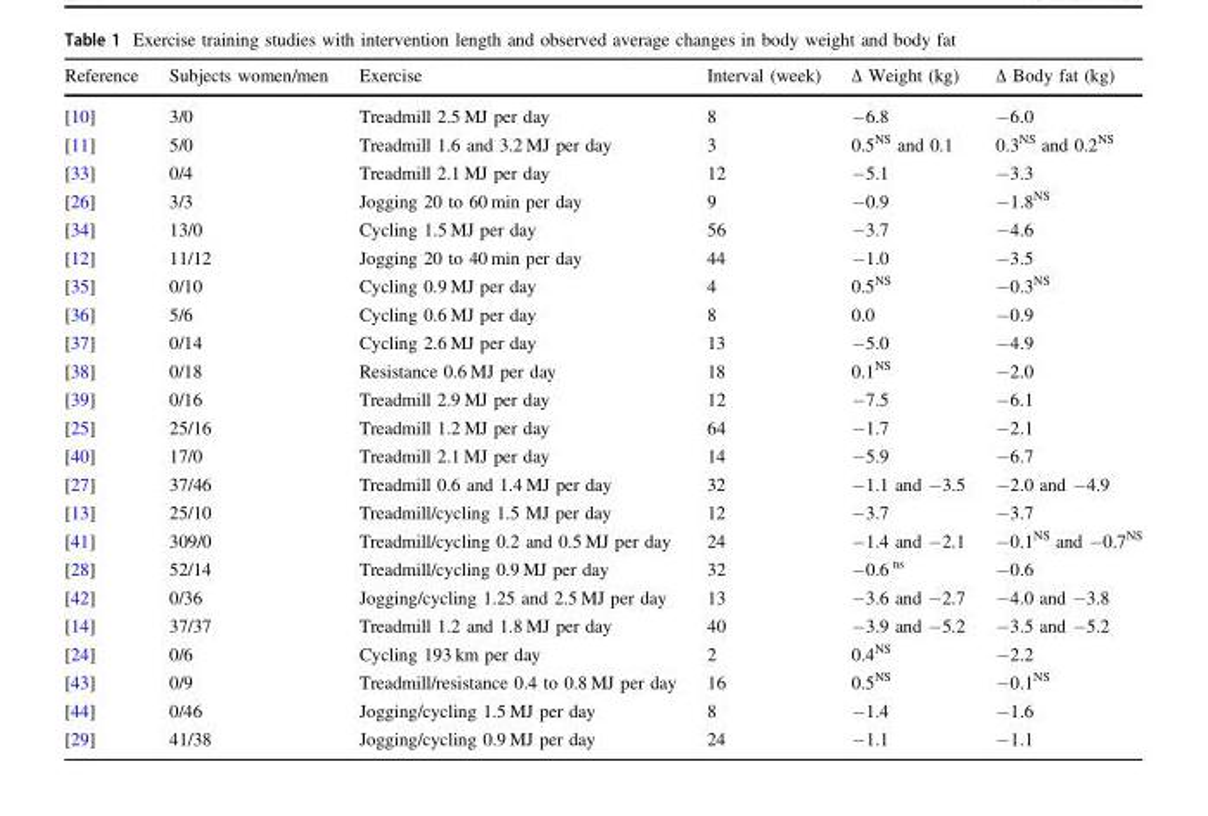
<table><thead><tr><td>Reference</td><td>Subjects women/men</td><td>Exercise</td><td>Interval (week)</td><td>Δ Weight (kg)</td><td>Δ Body fat (kg)</td></tr></thead><tbody><tr><td>[10]</td><td>3/0</td><td>Treadmill 2.5 MJ per day</td><td>8</td><td>−6.8</td><td>−6.0</td></tr><tr><td>[11]</td><td>5/0</td><td>Treadmill 1.6 and 3.2 MJ per day</td><td>3</td><td>0.5<sup>NS</sup> and 0.1</td><td>0.3<sup>NS</sup> and 0.2<sup>NS</sup></td></tr><tr><td>[33]</td><td>0/4</td><td>Treadmill 2.1 MJ per day</td><td>12</td><td>−5.1</td><td>−3.3</td></tr><tr><td>[26]</td><td>3/3</td><td>Jogging 20 to 60 min per day</td><td>9</td><td>−0.9</td><td>−1.8<sup>NS</sup></td></tr><tr><td>[34]</td><td>13/0</td><td>Cycling 1.5 MJ per day</td><td>56</td><td>−3.7</td><td>−4.6</td></tr><tr><td>[12]</td><td>11/12</td><td>Jogging 20 to 40 min per day</td><td>44</td><td>−1.0</td><td>−3.5</td></tr><tr><td>[35]</td><td>0/10</td><td>Cycling 0.9 MJ per day</td><td>4</td><td>0.5<sup>NS</sup></td><td>−0.3<sup>NS</sup></td></tr><tr><td>[36]</td><td>5/6</td><td>Cycling 0.6 MJ per day</td><td>8</td><td>0.0</td><td>−0.9</td></tr><tr><td>[37]</td><td>0/14</td><td>Cycling 2.6 MJ per day</td><td>13</td><td>−5.0</td><td>−4.9</td></tr><tr><td>[38]</td><td>0/18</td><td>Resistance 0.6 MJ per day</td><td>18</td><td>0.1<sup>NS</sup></td><td>−2.0</td></tr><tr><td>[39]</td><td>0/16</td><td>Treadmill 2.9 MJ per day</td><td>12</td><td>−7.5</td><td>−6.1</td></tr><tr><td>[25]</td><td>25/16</td><td>Treadmill 1.2 MJ per day</td><td>64</td><td>−1.7</td><td>−2.1</td></tr><tr><td>[40]</td><td>17/0</td><td>Treadmill 2.1 MJ per day</td><td>14</td><td>−5.9</td><td>−6.7</td></tr><tr><td>[27]</td><td>37/46</td><td>Treadmill 0.6 and 1.4 MJ per day</td><td>32</td><td>−1.1 and −3.5</td><td>−2.0 and −4.9</td></tr><tr><td>[13]</td><td>25/10</td><td>Treadmill/cycling 1.5 MJ per day</td><td>12</td><td>−3.7</td><td>−3.7</td></tr><tr><td>[41]</td><td>309/0</td><td>Treadmill/cycling 0.2 and 0.5 MJ per day</td><td>24</td><td>−1.4 and −2.1</td><td>−0.1<sup>NS</sup> and −0.7<sup>NS</sup></td></tr><tr><td>[28]</td><td>52/14</td><td>Treadmill/cycling 0.9 MJ per day</td><td>32</td><td>−0.6 <sup>ns</sup></td><td>−0.6</td></tr><tr><td>[42]</td><td>0/36</td><td>Jogging/cycling 1.25 and 2.5 MJ per day</td><td>13</td><td>−3.6 and −2.7</td><td>−4.0 and −3.8</td></tr><tr><td>[14]</td><td>37/37</td><td>Treadmill 1.2 and 1.8 MJ per day</td><td>40</td><td>−3.9 and −5.2</td><td>−3.5 and −5.2</td></tr><tr><td>[24]</td><td>0/6</td><td>Cycling 193 km per day</td><td>2</td><td>0.4<sup>NS</sup></td><td>−2.2</td></tr><tr><td>[43]</td><td>0/9</td><td>Treadmill/resistance 0.4 to 0.8 MJ per day</td><td>16</td><td>0.5<sup>NS</sup></td><td>−0.1<sup>NS</sup></td></tr><tr><td>[44]</td><td>0/46</td><td>Jogging/cycling 1.5 MJ per day</td><td>8</td><td>−1.4</td><td>−1.6</td></tr><tr><td>[29]</td><td>41/38</td><td>Jogging/cycling 0.9 MJ per day</td><td>24</td><td>−1.1</td><td>−1.1</td></tr></tbody></table>